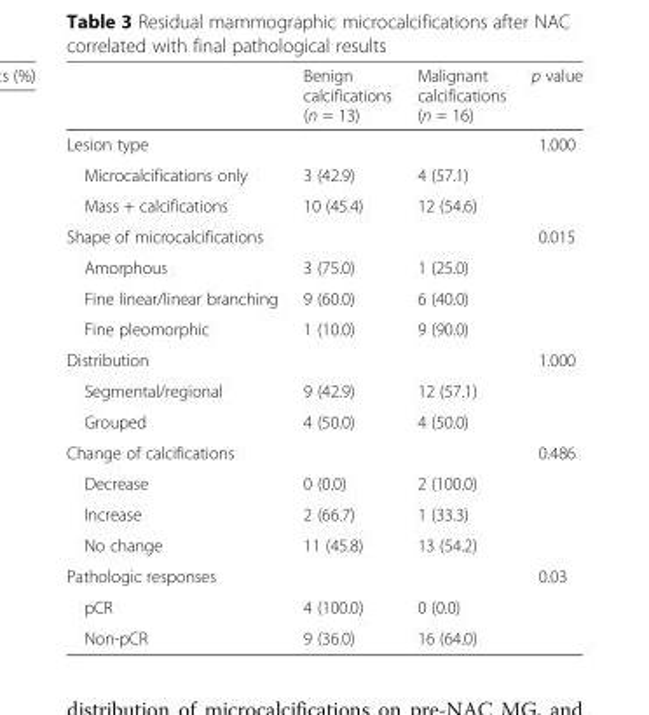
<table><thead><tr><td></td><td>Benign calcifications (n = 13)</td><td>Malignant calcifications (n = 16)</td><td>p value</td></tr></thead><tbody><tr><td>Lesion type</td><td></td><td></td><td>1.000</td></tr><tr><td>Microcalcifications only</td><td>3 (42.9)</td><td>4 (57.1)</td><td></td></tr><tr><td>Mass + calcifications</td><td>10 (45.4)</td><td>12 (54.6)</td><td></td></tr><tr><td>Shape of microcalcifications</td><td></td><td></td><td>0.015</td></tr><tr><td>Amorphous</td><td>3 (75.0)</td><td>1 (25.0)</td><td></td></tr><tr><td>Fine linear/linear branching</td><td>9 (60.0)</td><td>6 (40.0)</td><td></td></tr><tr><td>Fine pleomorphic</td><td>1 (10.0)</td><td>9 (90.0)</td><td></td></tr><tr><td>Distribution</td><td></td><td></td><td>1.000</td></tr><tr><td>Segmental/regional</td><td>9 (42.9)</td><td>12 (57.1)</td><td></td></tr><tr><td>Grouped</td><td>4 (50.0)</td><td>4 (50.0)</td><td></td></tr><tr><td>Change of calcifications</td><td></td><td></td><td>0.486</td></tr><tr><td>Decrease</td><td>0 (0.0)</td><td>2 (100.0)</td><td></td></tr><tr><td>Increase</td><td>2 (66.7)</td><td>1 (33.3)</td><td></td></tr><tr><td>No change</td><td>11 (45.8)</td><td>13 (54.2)</td><td></td></tr><tr><td>Pathologic responses</td><td></td><td></td><td>0.03</td></tr><tr><td>pCR</td><td>4 (100.0)</td><td>0 (0.0)</td><td></td></tr><tr><td>Non-pCR</td><td>9 (36.0)</td><td>16 (64.0)</td><td></td></tr></tbody></table>